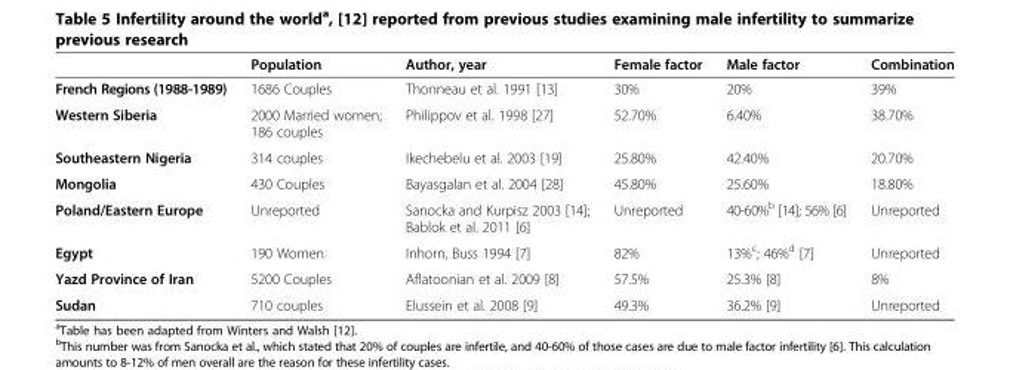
<table><thead><tr><td></td><td>Population</td><td>Author, year</td><td>Female factor</td><td>Male factor</td><td>Combination</td></tr></thead><tbody><tr><td>French Regions (1988-1989)</td><td>1686 Couples</td><td>Thonneau et al. 1991 [13]</td><td>30%</td><td>20%</td><td>39%</td></tr><tr><td>Western Siberia</td><td>2000 Married women; 186 couples</td><td>Philippov et al. 1998 [27]</td><td>52.70%</td><td>6.40%</td><td>38.70%</td></tr><tr><td>Southeastern Nigeria</td><td>314 couples</td><td>Ikechebelu et al. 2003 [19]</td><td>25.80%</td><td>42.40%</td><td>20.70%</td></tr><tr><td>Mongolia</td><td>430 Couples</td><td>Bayasgalan et al. 2004 [28]</td><td>45.80%</td><td>25.60%</td><td>18.80%</td></tr><tr><td>Poland/Eastern Europe</td><td>Unreported</td><td>Sanocka and Kurpisz 2003 [14]; Bablok et al. 2011 [6]</td><td>Unreported</td><td>40-60%<sup>b</sup> [14]; 56% [6]</td><td>Unreported</td></tr><tr><td>Egypt</td><td>190 Women</td><td>Inhorn, Buss 1994 [7]</td><td>82%</td><td>13%<sup>c</sup>; 46%<sup>d</sup> [7]</td><td>Unreported</td></tr><tr><td>Yazd Province of Iran</td><td>5200 Couples</td><td>Aflatoonian et al. 2009 [8]</td><td>57.5%</td><td>25.3% [8]</td><td>8%</td></tr><tr><td>Sudan</td><td>710 couples</td><td>Elussein et al. 2008 [9]</td><td>49.3%</td><td>36.2% [9]</td><td>Unreported</td></tr></tbody></table>